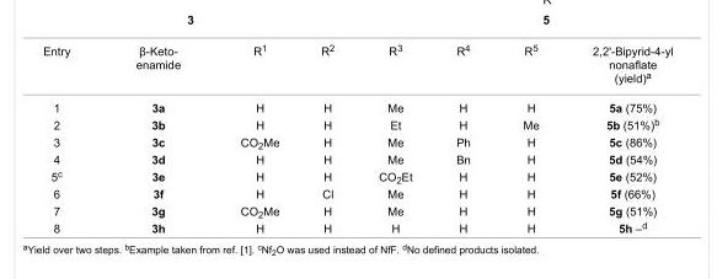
<table><tbody><tr><td>Entry</td><td>β-Keto- enamide</td><td>R<sup>1</sup></td><td>R<sup>2</sup></td><td>R<sup>3</sup></td><td>R<sup>4</sup></td><td>R<sup>5</sup></td><td>2,2&#x27;-Bipyrid-4-yl nonaflate (yield)<sup>a</sup></td></tr><tr><td>1</td><td>3a</td><td>H</td><td>H</td><td>Me</td><td>H</td><td>H</td><td>5a (75%)</td></tr><tr><td>2</td><td>3b</td><td>H</td><td>H</td><td>Et</td><td>H</td><td>Me</td><td>5b (51%)<sup>b</sup></td></tr><tr><td>3</td><td>3c</td><td>CO<sub>2</sub>Me</td><td>H</td><td>Me</td><td>Ph</td><td>H</td><td>5c (86%)</td></tr><tr><td>4</td><td>3d</td><td>H</td><td>H</td><td>Me</td><td>Bn</td><td>H</td><td>5d (54%)</td></tr><tr><td>5<sup>c</sup></td><td>3e</td><td>H</td><td>H</td><td>CO<sub>2</sub>Et</td><td>H</td><td>H</td><td>5e (52%)</td></tr><tr><td>6</td><td>3f</td><td>H</td><td>Cl</td><td>Me</td><td>H</td><td>H</td><td>5f (66%)</td></tr><tr><td>7</td><td>3g</td><td>CO<sub>2</sub>Me</td><td>H</td><td>Me</td><td>H</td><td>H</td><td>5g (51%)</td></tr><tr><td>8</td><td>3h</td><td>H</td><td>H</td><td>H</td><td>H</td><td>H</td><td>5h –<sup>d</sup></td></tr></tbody></table>